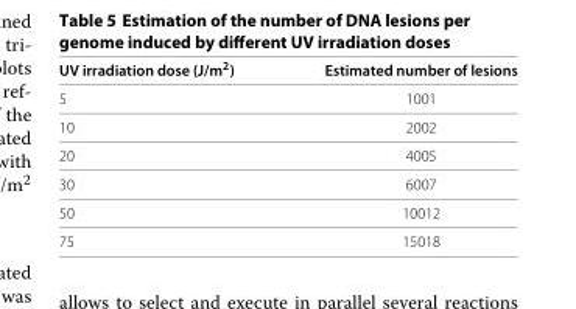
<table><thead><tr><td>UV irradiation dose (J/m<sup>2</sup>)</td><td>Estimated number of lesions</td></tr></thead><tbody><tr><td>5</td><td>1001</td></tr><tr><td>10</td><td>2002</td></tr><tr><td>20</td><td>4005</td></tr><tr><td>30</td><td>6007</td></tr><tr><td>50</td><td>10012</td></tr><tr><td>75</td><td>15018</td></tr></tbody></table>